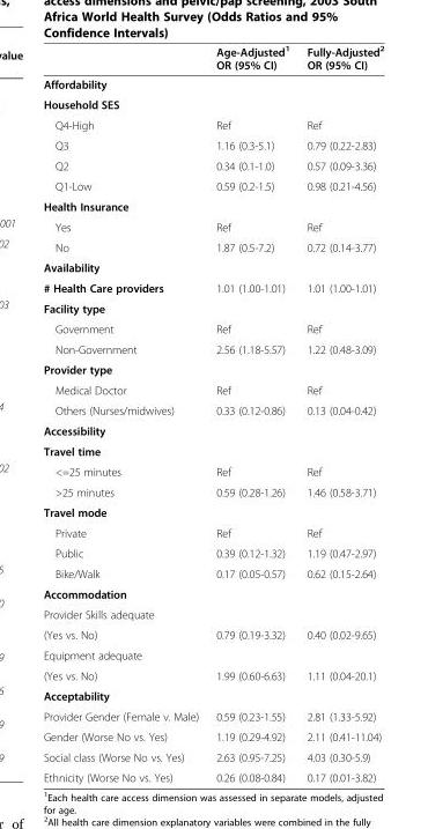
<table><thead><tr><td></td><td>Age-Adjusted<sup>1</sup> OR (95% CI)</td><td>Fully-Adjusted<sup>2</sup> OR (95% CI)</td></tr></thead><tbody><tr><td colspan="3">Affordability</td></tr><tr><td colspan="3">Household SES</td></tr><tr><td>Q4-High</td><td>Ref</td><td>Ref</td></tr><tr><td>Q3</td><td>1.16 (0.3-5.1)</td><td>0.79 (0.22-2.83)</td></tr><tr><td>Q2</td><td>0.34 (0.1-1.0)</td><td>0.57 (0.09-3.36)</td></tr><tr><td>Q1-Low</td><td>0.59 (0.2-1.5)</td><td>0.98 (0.21-4.56)</td></tr><tr><td colspan="3">Health Insurance</td></tr><tr><td>Yes</td><td>Ref</td><td>Ref</td></tr><tr><td>No</td><td>1.87 (0.5-7.2)</td><td>0.72 (0.14-3.77)</td></tr><tr><td colspan="3">Availability</td></tr><tr><td># Health Care providers</td><td>1.01 (1.00-1.01)</td><td>1.01 (1.00-1.01)</td></tr><tr><td colspan="3">Facility type</td></tr><tr><td>Government</td><td>Ref</td><td>Ref</td></tr><tr><td>Non-Government</td><td>2.56 (1.18-5.57)</td><td>1.22 (0.48-3.09)</td></tr><tr><td colspan="3">Provider type</td></tr><tr><td>Medical Doctor</td><td>Ref</td><td>Ref</td></tr><tr><td>Others (Nurses/midwives)</td><td>0.33 (0.12-0.86)</td><td>0.13 (0.04-0.42)</td></tr><tr><td colspan="3">Accessibility</td></tr><tr><td colspan="3">Travel time</td></tr><tr><td>&lt;=25 minutes</td><td>Ref</td><td>Ref</td></tr><tr><td>&gt;25 minutes</td><td>0.59 (0.28-1.26)</td><td>1.46 (0.58-3.71)</td></tr><tr><td colspan="3">Travel mode</td></tr><tr><td>Private</td><td>Ref</td><td>Ref</td></tr><tr><td>Public</td><td>0.39 (0.12-1.32)</td><td>1.19 (0.47-2.97)</td></tr><tr><td>Bike/Walk</td><td>0.17 (0.05-0.57)</td><td>0.62 (0.15-2.64)</td></tr><tr><td colspan="3">Accommodation</td></tr><tr><td colspan="3">Provider Skills adequate</td></tr><tr><td>(Yes vs. No)</td><td>0.79 (0.19-3.32)</td><td>0.40 (0.02-9.65)</td></tr><tr><td colspan="3">Equipment adequate</td></tr><tr><td>(Yes vs. No)</td><td>1.99 (0.60-6.63)</td><td>1.11 (0.04-20.1)</td></tr><tr><td colspan="3">Acceptability</td></tr><tr><td>Provider Gender (Female v. Male)</td><td>0.59 (0.23-1.55)</td><td>2.81 (1.33-5.92)</td></tr><tr><td>Gender (Worse No vs. Yes)</td><td>1.19 (0.29-4.92)</td><td>2.11 (0.41-11.04)</td></tr><tr><td>Social class (Worse No vs. Yes)</td><td>2.63 (0.95-7.25)</td><td>4.03 (0.30-5.9)</td></tr><tr><td>Ethnicity (Worse No vs. Yes)</td><td>0.26 (0.08-0.84)</td><td>0.17 (0.01-3.82)</td></tr></tbody></table>